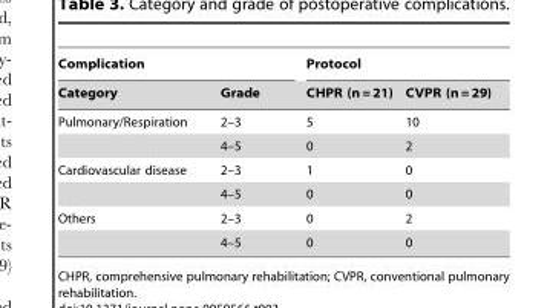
<table><thead><tr><td colspan="2">Complication</td><td colspan="2">Protocol</td></tr><tr><td>Category</td><td>Grade</td><td>CHPR (n = 21)</td><td>CVPR (n = 29)</td></tr></thead><tbody><tr><td rowspan="2">Pulmonary/Respiration</td><td>2–3</td><td>5</td><td>10</td></tr><tr><td>4–5</td><td>0</td><td>2</td></tr><tr><td rowspan="2">Cardiovascular disease</td><td>2–3</td><td>1</td><td>0</td></tr><tr><td>4–5</td><td>0</td><td>0</td></tr><tr><td rowspan="2">Others</td><td>2–3</td><td>0</td><td>2</td></tr><tr><td>4–5</td><td>0</td><td>0</td></tr></tbody></table>